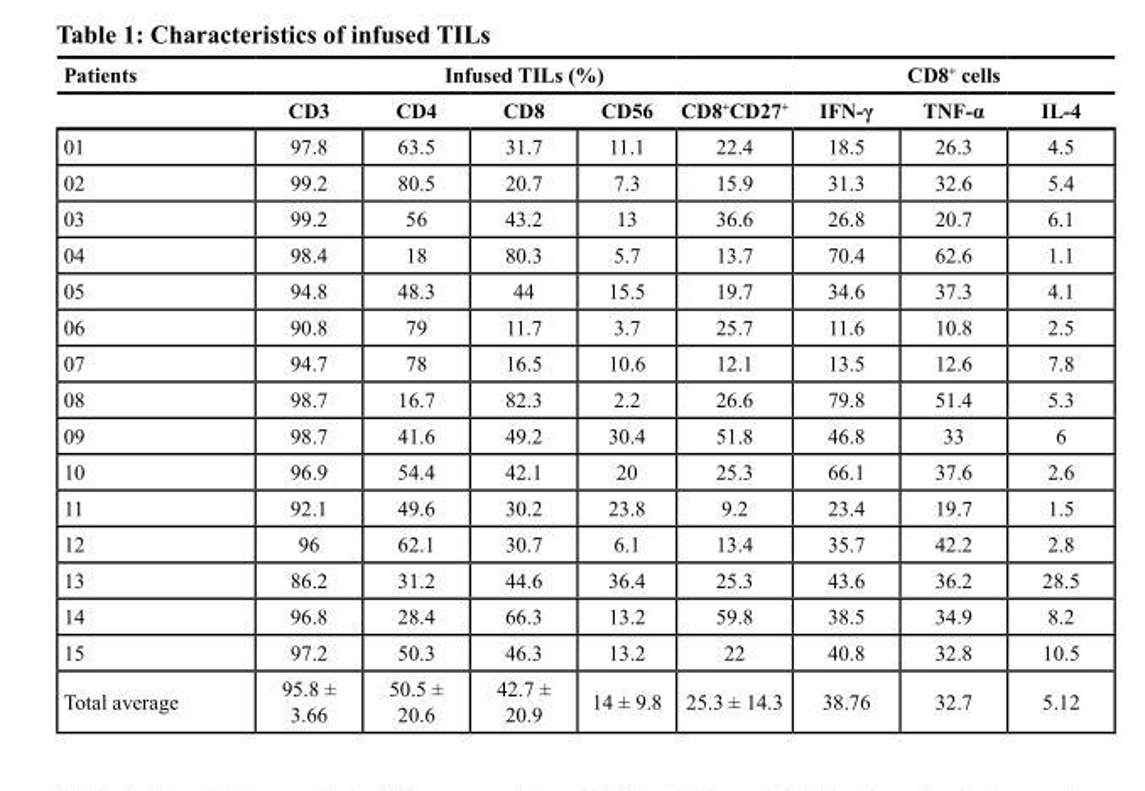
<table><thead><tr><td rowspan="2">Patients</td><td colspan="5">Infused TILs (%)</td><td colspan="3">CD8<sup>+</sup> cells</td></tr><tr><td>CD3</td><td>CD4</td><td>CD8</td><td>CD56</td><td>CD8<sup>+</sup>CD27<sup>+</sup></td><td>IFN-γ</td><td>TNF-α</td><td>IL-4</td></tr></thead><tbody><tr><td>01</td><td>97.8</td><td>63.5</td><td>31.7</td><td>11.1</td><td>22.4</td><td>18.5</td><td>26.3</td><td>4.5</td></tr><tr><td>02</td><td>99.2</td><td>80.5</td><td>20.7</td><td>7.3</td><td>15.9</td><td>31.3</td><td>32.6</td><td>5.4</td></tr><tr><td>03</td><td>99.2</td><td>56</td><td>43.2</td><td>13</td><td>36.6</td><td>26.8</td><td>20.7</td><td>6.1</td></tr><tr><td>04</td><td>98.4</td><td>18</td><td>80.3</td><td>5.7</td><td>13.7</td><td>70.4</td><td>62.6</td><td>1.1</td></tr><tr><td>05</td><td>94.8</td><td>48.3</td><td>44</td><td>15.5</td><td>19.7</td><td>34.6</td><td>37.3</td><td>4.1</td></tr><tr><td>06</td><td>90.8</td><td>79</td><td>11.7</td><td>3.7</td><td>25.7</td><td>11.6</td><td>10.8</td><td>2.5</td></tr><tr><td>07</td><td>94.7</td><td>78</td><td>16.5</td><td>10.6</td><td>12.1</td><td>13.5</td><td>12.6</td><td>7.8</td></tr><tr><td>08</td><td>98.7</td><td>16.7</td><td>82.3</td><td>2.2</td><td>26.6</td><td>79.8</td><td>51.4</td><td>5.3</td></tr><tr><td>09</td><td>98.7</td><td>41.6</td><td>49.2</td><td>30.4</td><td>51.8</td><td>46.8</td><td>33</td><td>6</td></tr><tr><td>10</td><td>96.9</td><td>54.4</td><td>42.1</td><td>20</td><td>25.3</td><td>66.1</td><td>37.6</td><td>2.6</td></tr><tr><td>11</td><td>92.1</td><td>49.6</td><td>30.2</td><td>23.8</td><td>9.2</td><td>23.4</td><td>19.7</td><td>1.5</td></tr><tr><td>12</td><td>96</td><td>62.1</td><td>30.7</td><td>6.1</td><td>13.4</td><td>35.7</td><td>42.2</td><td>2.8</td></tr><tr><td>13</td><td>86.2</td><td>31.2</td><td>44.6</td><td>36.4</td><td>25.3</td><td>43.6</td><td>36.2</td><td>28.5</td></tr><tr><td>14</td><td>96.8</td><td>28.4</td><td>66.3</td><td>13.2</td><td>59.8</td><td>38.5</td><td>34.9</td><td>8.2</td></tr><tr><td>15</td><td>97.2</td><td>50.3</td><td>46.3</td><td>13.2</td><td>22</td><td>40.8</td><td>32.8</td><td>10.5</td></tr><tr><td>Total average</td><td>95.8 ± 3.66</td><td>50.5 ± 20.6</td><td>42.7 ± 20.9</td><td>14 ± 9.8</td><td>25.3 ± 14.3</td><td>38.76</td><td>32.7</td><td>5.12</td></tr></tbody></table>